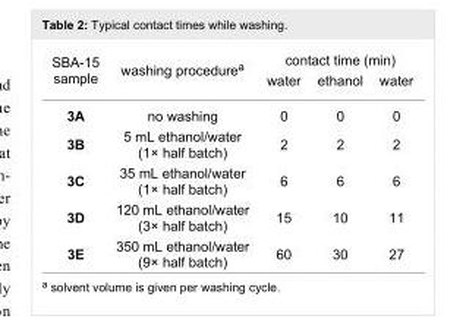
<table><tbody><tr><td rowspan="2">SBA-15 sample</td><td rowspan="2">washing procedure<sup>a</sup></td><td colspan="3">contact time (min)</td></tr><tr><td>water</td><td>ethanol</td><td>water</td></tr><tr><td>3A</td><td>no washing</td><td>0</td><td>0</td><td>0</td></tr><tr><td>3B</td><td>5 mL ethanol/water (1× half batch)</td><td>2</td><td>2</td><td>2</td></tr><tr><td>3C</td><td>35 mL ethanol/water (1× half batch)</td><td>6</td><td>6</td><td>6</td></tr><tr><td>3D</td><td>120 mL ethanol/water (3× half batch)</td><td>15</td><td>10</td><td>11</td></tr><tr><td>3E</td><td>350 mL ethanol/water (9× half batch)</td><td>60</td><td>30</td><td>27</td></tr></tbody></table>